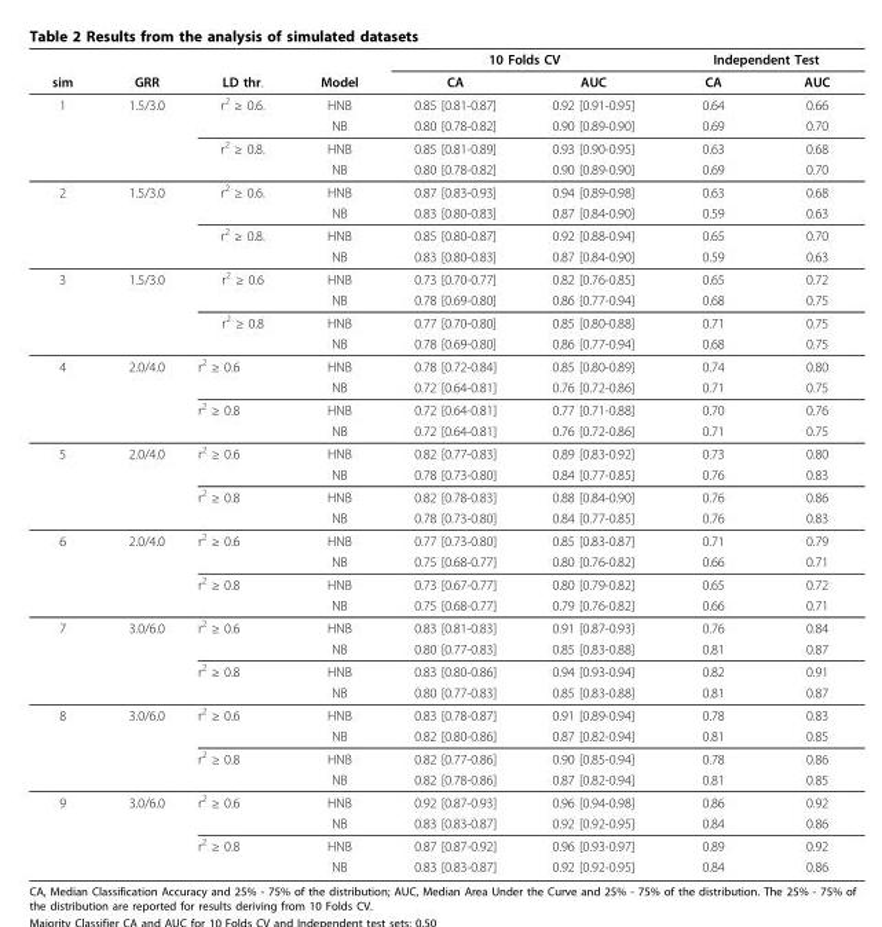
<table><thead><tr><td rowspan="2">sim</td><td rowspan="2">GRR</td><td rowspan="2">LD thr.</td><td rowspan="2">Model</td><td colspan="2">10 Folds CV</td><td colspan="2">Independent Test</td></tr><tr><td>CA</td><td>AUC</td><td>CA</td><td>AUC</td></tr></thead><tbody><tr><td rowspan="4">1</td><td>1.5/3.0</td><td>r<sup>2</sup> ≥ 0.6.</td><td>HNB</td><td>0.85 [0.81-0.87]</td><td>0.92 [0.91-0.95]</td><td>0.64</td><td>0.66</td></tr><tr><td></td><td></td><td>NB</td><td>0.80 [0.78-0.82]</td><td>0.90 [0.89-0.90]</td><td>0.69</td><td>0.70</td></tr><tr><td></td><td>r<sup>2</sup> ≥ 0.8.</td><td>HNB</td><td>0.85 [0.81-0.89]</td><td>0.93 [0.90-0.95]</td><td>0.63</td><td>0.68</td></tr><tr><td></td><td></td><td>NB</td><td>0.80 [0.78-0.82]</td><td>0.90 [0.89-0.90]</td><td>0.69</td><td>0.70</td></tr><tr><td rowspan="4">2</td><td>1.5/3.0</td><td>r<sup>2</sup> ≥ 0.6.</td><td>HNB</td><td>0.87 [0.83-0.93]</td><td>0.94 [0.89-0.98]</td><td>0.63</td><td>0.68</td></tr><tr><td></td><td></td><td>NB</td><td>0.83 [0.80-0.83]</td><td>0.87 [0.84-0.90]</td><td>0.59</td><td>0.63</td></tr><tr><td></td><td>r<sup>2</sup> ≥ 0.8.</td><td>HNB</td><td>0.85 [0.80-0.87]</td><td>0.92 [0.88-0.94]</td><td>0.65</td><td>0.70</td></tr><tr><td></td><td></td><td>NB</td><td>0.83 [0.80-0.83]</td><td>0.87 [0.84-0.90]</td><td>0.59</td><td>0.63</td></tr><tr><td rowspan="4">3</td><td>1.5/3.0</td><td>r<sup>2</sup> ≥ 0.6</td><td>HNB</td><td>0.73 [0.70-0.77]</td><td>0.82 [0.76-0.85]</td><td>0.65</td><td>0.72</td></tr><tr><td></td><td></td><td>NB</td><td>0.78 [0.69-0.80]</td><td>0.86 [0.77-0.94]</td><td>0.68</td><td>0.75</td></tr><tr><td></td><td>r<sup>2</sup> ≥ 0.8</td><td>HNB</td><td>0.77 [0.70-0.80]</td><td>0.85 [0.80-0.88]</td><td>0.71</td><td>0.75</td></tr><tr><td></td><td></td><td>NB</td><td>0.78 [0.69-0.80]</td><td>0.86 [0.77-0.94]</td><td>0.68</td><td>0.75</td></tr><tr><td rowspan="4">4</td><td>2.0/4.0</td><td>r<sup>2</sup> ≥ 0.6</td><td>HNB</td><td>0.78 [0.72-0.84]</td><td>0.85 [0.80-0.89]</td><td>0.74</td><td>0.80</td></tr><tr><td></td><td></td><td>NB</td><td>0.72 [0.64-0.81]</td><td>0.76 [0.72-0.86]</td><td>0.71</td><td>0.75</td></tr><tr><td></td><td>r<sup>2</sup> ≥ 0.8</td><td>HNB</td><td>0.72 [0.64-0.81]</td><td>0.77 [0.71-0.88]</td><td>0.70</td><td>0.76</td></tr><tr><td></td><td></td><td>NB</td><td>0.72 [0.64-0.81]</td><td>0.76 [0.72-0.86]</td><td>0.71</td><td>0.75</td></tr><tr><td rowspan="4">5</td><td>2.0/4.0</td><td>r<sup>2</sup> ≥ 0.6</td><td>HNB</td><td>0.82 [0.77-0.83]</td><td>0.89 [0.83-0.92]</td><td>0.73</td><td>0.80</td></tr><tr><td></td><td></td><td>NB</td><td>0.78 [0.73-0.80]</td><td>0.84 [0.77-0.85]</td><td>0.76</td><td>0.83</td></tr><tr><td></td><td>r<sup>2</sup> ≥ 0.8</td><td>HNB</td><td>0.82 [0.78-0.83]</td><td>0.88 [0.84-0.90]</td><td>0.76</td><td>0.86</td></tr><tr><td></td><td></td><td>NB</td><td>0.78 [0.73-0.80]</td><td>0.84 [0.77-0.85]</td><td>0.76</td><td>0.83</td></tr><tr><td rowspan="4">6</td><td>2.0/4.0</td><td>r<sup>2</sup> ≥ 0.6</td><td>HNB</td><td>0.77 [0.73-0.80]</td><td>0.85 [0.83-0.87]</td><td>0.71</td><td>0.79</td></tr><tr><td></td><td></td><td>NB</td><td>0.75 [0.68-0.77]</td><td>0.80 [0.76-0.82]</td><td>0.66</td><td>0.71</td></tr><tr><td></td><td>r<sup>2</sup> ≥ 0.8</td><td>HNB</td><td>0.73 [0.67-0.77]</td><td>0.80 [0.79-0.82]</td><td>0.65</td><td>0.72</td></tr><tr><td></td><td></td><td>NB</td><td>0.75 [0.68-0.77]</td><td>0.79 [0.76-0.82]</td><td>0.66</td><td>0.71</td></tr><tr><td rowspan="4">7</td><td>3.0/6.0</td><td>r<sup>2</sup> ≥ 0.6</td><td>HNB</td><td>0.83 [0.81-0.83]</td><td>0.91 [0.87-0.93]</td><td>0.76</td><td>0.84</td></tr><tr><td></td><td></td><td>NB</td><td>0.80 [0.77-0.83]</td><td>0.85 [0.83-0.88]</td><td>0.81</td><td>0.87</td></tr><tr><td></td><td>r<sup>2</sup> ≥ 0.8</td><td>HNB</td><td>0.83 [0.80-0.86]</td><td>0.94 [0.93-0.94]</td><td>0.82</td><td>0.91</td></tr><tr><td></td><td></td><td>NB</td><td>0.80 [0.77-0.83]</td><td>0.85 [0.83-0.88]</td><td>0.81</td><td>0.87</td></tr><tr><td rowspan="4">8</td><td>3.0/6.0</td><td>r<sup>2</sup> ≥ 0.6</td><td>HNB</td><td>0.83 [0.78-0.87]</td><td>0.91 [0.89-0.94]</td><td>0.78</td><td>0.83</td></tr><tr><td></td><td></td><td>NB</td><td>0.82 [0.80-0.86]</td><td>0.87 [0.82-0.94]</td><td>0.81</td><td>0.85</td></tr><tr><td></td><td>r<sup>2</sup> ≥ 0.8</td><td>HNB</td><td>0.82 [0.77-0.86]</td><td>0.90 [0.85-0.94]</td><td>0.78</td><td>0.86</td></tr><tr><td></td><td></td><td>NB</td><td>0.82 [0.78-0.86]</td><td>0.87 [0.82-0.94]</td><td>0.81</td><td>0.85</td></tr><tr><td rowspan="4">9</td><td>3.0/6.0</td><td>r<sup>2</sup> ≥ 0.6</td><td>HNB</td><td>0.92 [0.87-0.93]</td><td>0.96 [0.94-0.98]</td><td>0.86</td><td>0.92</td></tr><tr><td></td><td></td><td>NB</td><td>0.83 [0.83-0.87]</td><td>0.92 [0.92-0.95]</td><td>0.84</td><td>0.86</td></tr><tr><td></td><td>r<sup>2</sup> ≥ 0.8</td><td>HNB</td><td>0.87 [0.87-0.92]</td><td>0.96 [0.93-0.97]</td><td>0.89</td><td>0.92</td></tr><tr><td></td><td></td><td>NB</td><td>0.83 [0.83-0.87]</td><td>0.92 [0.92-0.95]</td><td>0.84</td><td>0.86</td></tr></tbody></table>